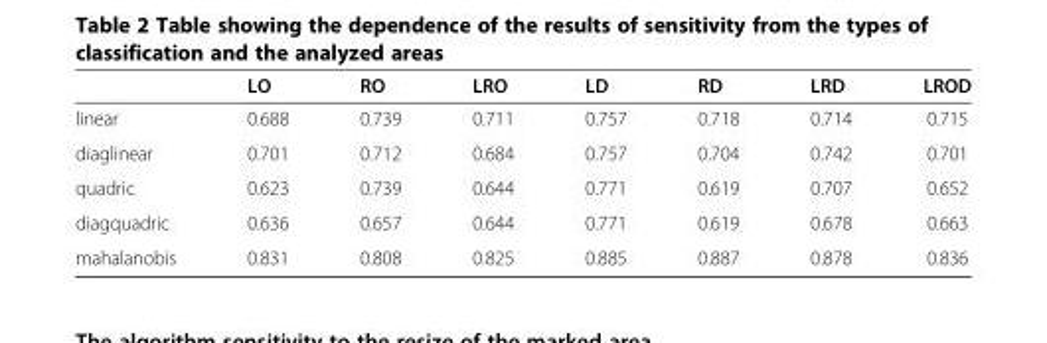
<table><thead><tr><td></td><td>LO</td><td>RO</td><td>LRO</td><td>LD</td><td>RD</td><td>LRD</td><td>LROD</td></tr></thead><tbody><tr><td>linear</td><td>0.688</td><td>0.739</td><td>0.711</td><td>0.757</td><td>0.718</td><td>0.714</td><td>0.715</td></tr><tr><td>diaglinear</td><td>0.701</td><td>0.712</td><td>0.684</td><td>0.757</td><td>0.704</td><td>0.742</td><td>0.701</td></tr><tr><td>quadric</td><td>0.623</td><td>0.739</td><td>0.644</td><td>0.771</td><td>0.619</td><td>0.707</td><td>0.652</td></tr><tr><td>diagquadric</td><td>0.636</td><td>0.657</td><td>0.644</td><td>0.771</td><td>0.619</td><td>0.678</td><td>0.663</td></tr><tr><td>mahalanobis</td><td>0.831</td><td>0.808</td><td>0.825</td><td>0.885</td><td>0.887</td><td>0.878</td><td>0.836</td></tr></tbody></table>